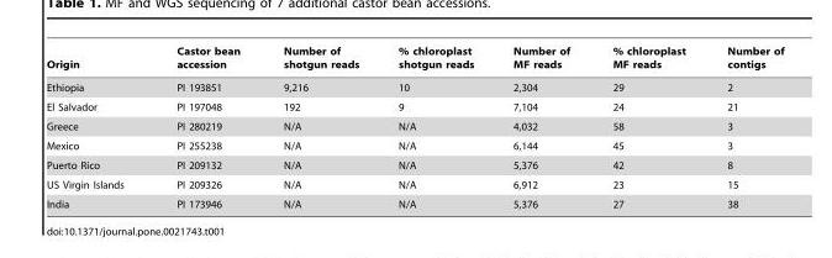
<table><thead><tr><td>Origin</td><td>Castor bean accession</td><td>Number of shotgun reads</td><td>% chloroplast shotgun reads</td><td>Number of MF reads</td><td>% chloroplast MF reads</td><td>Number of contigs</td></tr></thead><tbody><tr><td>Ethiopia</td><td>PI 193851</td><td>9,216</td><td>10</td><td>2,304</td><td>29</td><td>2</td></tr><tr><td>El Salvador</td><td>PI 197048</td><td>192</td><td>9</td><td>7,104</td><td>24</td><td>21</td></tr><tr><td>Greece</td><td>PI 280219</td><td>N/A</td><td>N/A</td><td>4,032</td><td>58</td><td>3</td></tr><tr><td>Mexico</td><td>PI 255238</td><td>N/A</td><td>N/A</td><td>6,144</td><td>45</td><td>3</td></tr><tr><td>Puerto Rico</td><td>PI 209132</td><td>N/A</td><td>N/A</td><td>5,376</td><td>42</td><td>8</td></tr><tr><td>US Virgin Islands</td><td>PI 209326</td><td>N/A</td><td>N/A</td><td>6,912</td><td>23</td><td>15</td></tr><tr><td>India</td><td>PI 173946</td><td>N/A</td><td>N/A</td><td>5,376</td><td>27</td><td>38</td></tr></tbody></table>